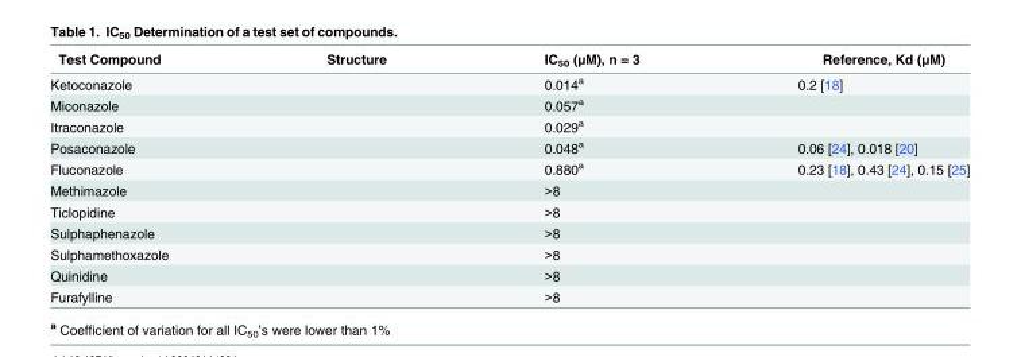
<table><thead><tr><td>Test Compound</td><td>Structure</td><td>IC<sub>50</sub> (μM), n = 3</td><td>Reference, Kd (μM)</td></tr></thead><tbody><tr><td>Ketoconazole</td><td></td><td>0.014<sup>a</sup></td><td>0.2 [18]</td></tr><tr><td>Miconazole</td><td></td><td>0.057<sup>a</sup></td><td></td></tr><tr><td>Itraconazole</td><td></td><td>0.029<sup>a</sup></td><td></td></tr><tr><td>Posaconazole</td><td></td><td>0.048<sup>a</sup></td><td>0.06 [24], 0.018 [20]</td></tr><tr><td>Fluconazole</td><td></td><td>0.880<sup>a</sup></td><td>0.23 [18], 0.43 [24], 0.15 [25]</td></tr><tr><td>Methimazole</td><td></td><td>&gt;8</td><td></td></tr><tr><td>Ticlopidine</td><td></td><td>&gt;8</td><td></td></tr><tr><td>Sulphaphenazole</td><td></td><td>&gt;8</td><td></td></tr><tr><td>Sulphamethoxazole</td><td></td><td>&gt;8</td><td></td></tr><tr><td>Quinidine</td><td></td><td>&gt;8</td><td></td></tr><tr><td>Furafylline</td><td></td><td>&gt;8</td><td></td></tr></tbody></table>